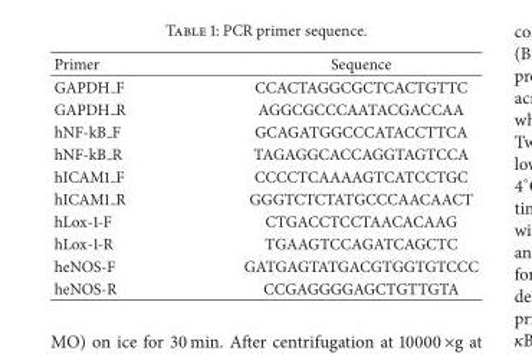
<table><thead><tr><td>Primer</td><td>Sequence</td></tr></thead><tbody><tr><td>GAPDH F</td><td>CCACTAGGCGCTCACTGTTC</td></tr><tr><td>GAPDH R</td><td>AGGCGCCCAATACGACCAA</td></tr><tr><td>hNF-kB F</td><td>GCAGATGGCCCATACCTTCA</td></tr><tr><td>hNF-kB R</td><td>TAGAGGCACCAGGTAGTCCA</td></tr><tr><td>hICAM1 F</td><td>CCCCTCAAAAGTCATCCTGC</td></tr><tr><td>hICAM1 R</td><td>GGGTCTCTATGCCCAACAACT</td></tr><tr><td>hLox-1-F</td><td>CTGACCTCCTAACACAAG</td></tr><tr><td>hLox-1-R</td><td>TGAAGTCCAGATCAGCTC</td></tr><tr><td>heNOS-F</td><td>GATGAGTATGACGTGGTGTCCC</td></tr><tr><td>heNOS-R</td><td>CCGAGGGGAGCTGTTGTA</td></tr></tbody></table>